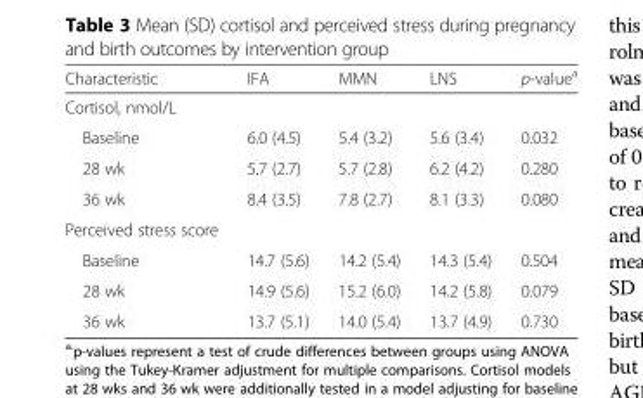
<table><thead><tr><td>Characteristic</td><td>IFA</td><td>MMN</td><td>LNS</td><td>p-value<sup>a</sup></td></tr></thead><tbody><tr><td colspan="5">Cortisol, nmol/L</td></tr><tr><td>Baseline</td><td>6.0 (4.5)</td><td>5.4 (3.2)</td><td>5.6 (3.4)</td><td>0.032</td></tr><tr><td>28 wk</td><td>5.7 (2.7)</td><td>5.7 (2.8)</td><td>6.2 (4.2)</td><td>0.280</td></tr><tr><td>36 wk</td><td>8.4 (3.5)</td><td>7.8 (2.7)</td><td>8.1 (3.3)</td><td>0.080</td></tr><tr><td colspan="5">Perceived stress score</td></tr><tr><td>Baseline</td><td>14.7 (5.6)</td><td>14.2 (5.4)</td><td>14.3 (5.4)</td><td>0.504</td></tr><tr><td>28 wk</td><td>14.9 (5.6)</td><td>15.2 (6.0)</td><td>14.2 (5.8)</td><td>0.079</td></tr><tr><td>36 wk</td><td>13.7 (5.1)</td><td>14.0 (5.4)</td><td>13.7 (4.9)</td><td>0.730</td></tr></tbody></table>